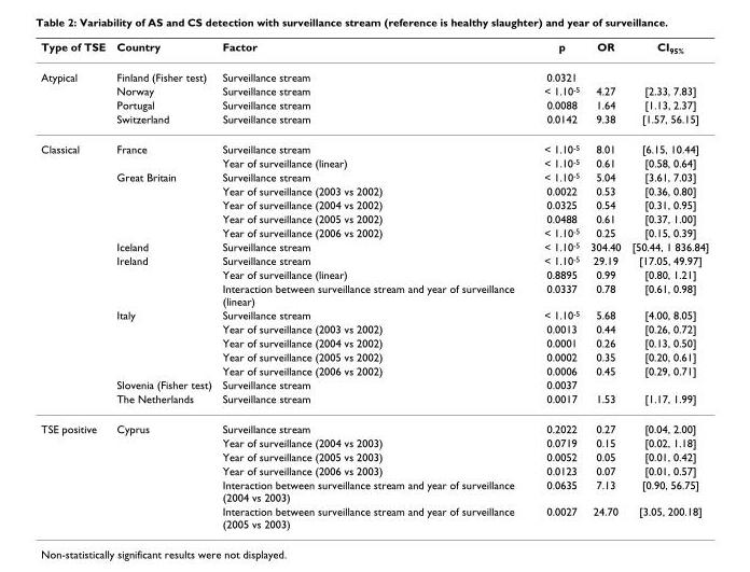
<table><thead><tr><td>Type of TSE</td><td>Country</td><td>Factor</td><td>p</td><td>OR</td><td>CI<sub>95%</sub></td></tr></thead><tbody><tr><td rowspan="4">Atypical</td><td>Finland (Fisher test)</td><td>Surveillance stream</td><td>0.0321</td><td></td><td></td></tr><tr><td>Norway</td><td>Surveillance stream</td><td>&lt; 1.10<sup>-5</sup></td><td>4.27</td><td>[2.33, 7.83]</td></tr><tr><td>Portugal</td><td>Surveillance stream</td><td>0.0088</td><td>1.64</td><td>[1.13, 2.37]</td></tr><tr><td>Switzerland</td><td>Surveillance stream</td><td>0.0142</td><td>9.38</td><td>[1.57, 56.15]</td></tr><tr><td rowspan="18">Classical</td><td>France</td><td>Surveillance stream</td><td>&lt; 1.10<sup>-5</sup></td><td>8.01</td><td>[6.15, 10.44]</td></tr><tr><td></td><td>Year of surveillance (linear)</td><td>&lt; 1.10<sup>-5</sup></td><td>0.61</td><td>[0.58, 0.64]</td></tr><tr><td>Great Britain</td><td>Surveillance stream</td><td>&lt; 1.10<sup>-5</sup></td><td>5.04</td><td>[3.61, 7.03]</td></tr><tr><td></td><td>Year of surveillance (2003 vs 2002)</td><td>0.0022</td><td>0.53</td><td>[0.36, 0.80]</td></tr><tr><td></td><td>Year of surveillance (2004 vs 2002)</td><td>0.0325</td><td>0.54</td><td>[0.31, 0.95]</td></tr><tr><td></td><td>Year of surveillance (2005 vs 2002)</td><td>0.0488</td><td>0.61</td><td>[0.37, 1.00]</td></tr><tr><td></td><td>Year of surveillance (2006 vs 2002)</td><td>&lt; 1.10<sup>-5</sup></td><td>0.25</td><td>[0.15, 0.39]</td></tr><tr><td>Iceland</td><td>Surveillance stream</td><td>&lt; 1.10<sup>-5</sup></td><td>304.40</td><td>[50.44, 1 836.84]</td></tr><tr><td>Ireland</td><td>Surveillance stream</td><td>&lt; 1.10<sup>-5</sup></td><td>29.19</td><td>[17.05, 49.97]</td></tr><tr><td></td><td>Year of surveillance (linear)</td><td>0.8895</td><td>0.99</td><td>[0.80, 1.21]</td></tr><tr><td></td><td>Interaction between surveillance stream and year of surveillance (linear)</td><td>0.0337</td><td>0.78</td><td>[0.61, 0.98]</td></tr><tr><td>Italy</td><td>Surveillance stream</td><td>&lt; 1.10<sup>-5</sup></td><td>5.68</td><td>[4.00, 8.05]</td></tr><tr><td></td><td>Year of surveillance (2003 vs 2002)</td><td>0.0013</td><td>0.44</td><td>[0.26, 0.72]</td></tr><tr><td></td><td>Year of surveillance (2004 vs 2002)</td><td>0.0001</td><td>0.26</td><td>[0.13, 0.50]</td></tr><tr><td></td><td>Year of surveillance (2005 vs 2002)</td><td>0.0002</td><td>0.35</td><td>[0.20, 0.61]</td></tr><tr><td></td><td>Year of surveillance (2006 vs 2002)</td><td>0.0006</td><td>0.45</td><td>[0.29, 0.71]</td></tr><tr><td>Slovenia (Fisher test)</td><td>Surveillance stream</td><td>0.0037</td><td></td><td></td></tr><tr><td>The Netherlands</td><td>Surveillance stream</td><td>0.0017</td><td>1.53</td><td>[1.17, 1.99]</td></tr><tr><td rowspan="6">TSE positive</td><td>Cyprus</td><td>Surveillance stream</td><td>0.2022</td><td>0.27</td><td>[0.04, 2.00]</td></tr><tr><td></td><td>Year of surveillance (2004 vs 2003)</td><td>0.0719</td><td>0.15</td><td>[0.02, 1.18]</td></tr><tr><td></td><td>Year of surveillance (2005 vs 2003)</td><td>0.0052</td><td>0.05</td><td>[0.01, 0.42]</td></tr><tr><td></td><td>Year of surveillance (2006 vs 2003)</td><td>0.0123</td><td>0.07</td><td>[0.01, 0.57]</td></tr><tr><td></td><td>Interaction between surveillance stream and year of surveillance (2004 vs 2003)</td><td>0.0635</td><td>7.13</td><td>[0.90, 56.75]</td></tr><tr><td></td><td>Interaction between surveillance stream and year of surveillance (2005 vs 2003)</td><td>0.0027</td><td>24.70</td><td>[3.05, 200.18]</td></tr></tbody></table>